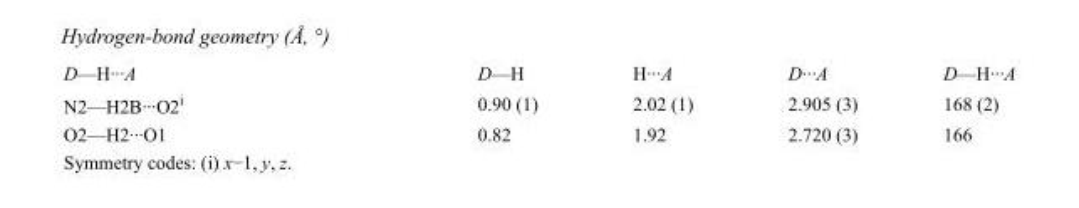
<table><tbody><tr><td>D—H···A</td><td>D—H</td><td>H···A</td><td>D···A</td><td>D—H···A</td></tr><tr><td>N2—H2B···O2<sup>i</sup></td><td>0.90 (1)</td><td>2.02 (1)</td><td>2.905 (3)</td><td>168 (2)</td></tr><tr><td>O2—H2···O1</td><td>0.82</td><td>1.92</td><td>2.720 (3)</td><td>166</td></tr></tbody></table>